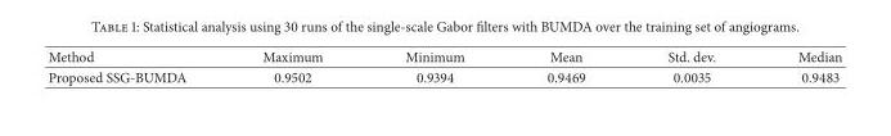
<table><thead><tr><td>Method</td><td>Maximum</td><td>Minimum</td><td>Mean</td><td>Std. dev.</td><td>Median</td></tr></thead><tbody><tr><td>Proposed SSG-BUMDA</td><td>0.9502</td><td>0.9394</td><td>0.9469</td><td>0.0035</td><td>0.9483</td></tr></tbody></table>